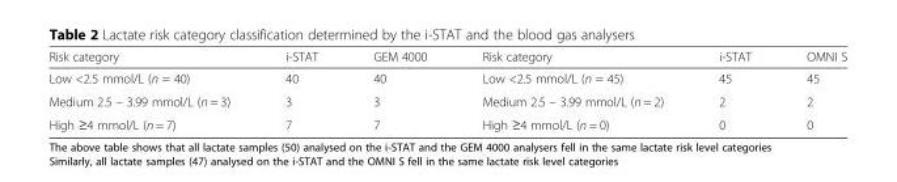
<table><thead><tr><td>Risk category</td><td>i-STAT</td><td>GEM 4000</td><td>Risk category</td><td>i-STAT</td><td>OMNI S</td></tr></thead><tbody><tr><td>Low &lt;2.5 mmol/L (n = 40)</td><td>40</td><td>40</td><td>Low &lt;2.5 mmol/L (n = 45)</td><td>45</td><td>45</td></tr><tr><td>Medium 2.5 – 3.99 mmol/L (n = 3)</td><td>3</td><td>3</td><td>Medium 2.5 – 3.99 mmol/L (n = 2)</td><td>2</td><td>2</td></tr><tr><td>High ≥4 mmol/L (n = 7)</td><td>7</td><td>7</td><td>High ≥4 mmol/L (n = 0)</td><td>0</td><td>0</td></tr></tbody></table>